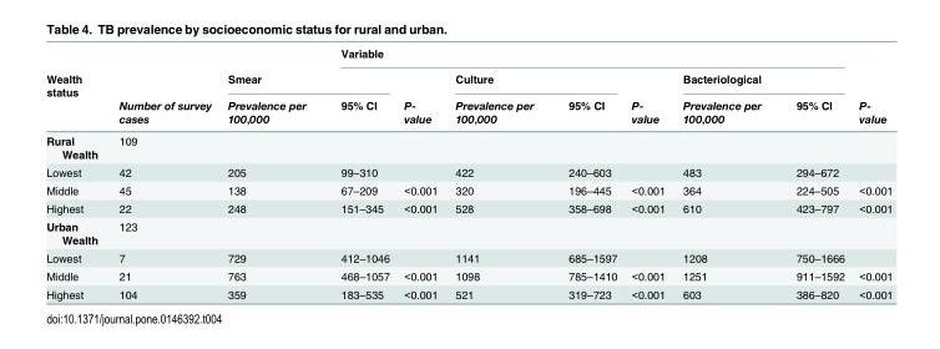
<table><thead><tr><td rowspan="3">Wealth status</td><td rowspan="3">Number of survey cases</td><td></td><td colspan="7">Variable</td><td rowspan="3">P- value</td></tr><tr><td colspan="2">Smear</td><td rowspan="2">P- value</td><td colspan="2">Culture</td><td rowspan="2">P- value</td><td colspan="2">Bacteriological</td></tr><tr><td>Prevalence per 100,000</td><td>95% CI</td><td>Prevalence per 100,000</td><td>95% CI</td><td>Prevalence per 100,000</td><td>95% CI</td></tr></thead><tbody><tr><td>Rural Wealth</td><td>109</td><td></td><td></td><td></td><td></td><td></td><td></td><td></td><td></td><td></td></tr><tr><td>Lowest</td><td>42</td><td>205</td><td>99–310</td><td></td><td>422</td><td>240–603</td><td></td><td>483</td><td>294–672</td><td></td></tr><tr><td>Middle</td><td>45</td><td>138</td><td>67–209</td><td>&lt;0.001</td><td>320</td><td>196–445</td><td>&lt;0.001</td><td>364</td><td>224–505</td><td>&lt;0.001</td></tr><tr><td>Highest</td><td>22</td><td>248</td><td>151–345</td><td>&lt;0.001</td><td>528</td><td>358–698</td><td>&lt;0.001</td><td>610</td><td>423–797</td><td>&lt;0.001</td></tr><tr><td>Urban Wealth</td><td>123</td><td></td><td></td><td></td><td></td><td></td><td></td><td></td><td></td><td></td></tr><tr><td>Lowest</td><td>7</td><td>729</td><td>412–1046</td><td></td><td>1141</td><td>685–1597</td><td></td><td>1208</td><td>750–1666</td><td></td></tr><tr><td>Middle</td><td>21</td><td>763</td><td>468–1057</td><td>&lt;0.001</td><td>1098</td><td>785–1410</td><td>&lt;0.001</td><td>1251</td><td>911–1592</td><td>&lt;0.001</td></tr><tr><td>Highest</td><td>104</td><td>359</td><td>183–535</td><td>&lt;0.001</td><td>521</td><td>319–723</td><td>&lt;0.001</td><td>603</td><td>386–820</td><td>&lt;0.001</td></tr></tbody></table>